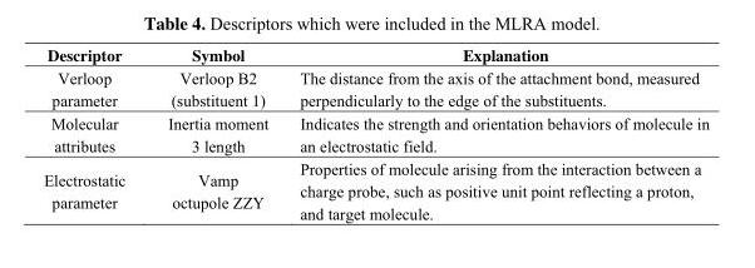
<table><thead><tr><td>Descriptor</td><td>Symbol</td><td>Explanation</td></tr></thead><tbody><tr><td>Verloop parameter</td><td>Verloop B2 (substituent 1)</td><td>The distance from the axis of the attachment bond, measured perpendicularly to the edge of the substituents.</td></tr><tr><td>Molecular attributes</td><td>Inertia moment 3 length</td><td>Indicates the strength and orientation behaviors of molecule in an electrostatic field.</td></tr><tr><td>Electrostatic parameter</td><td>Vamp octupole ZZY</td><td>Properties of molecule arising from the interaction between a charge probe, such as positive unit point reflecting a proton, and target molecule.</td></tr></tbody></table>